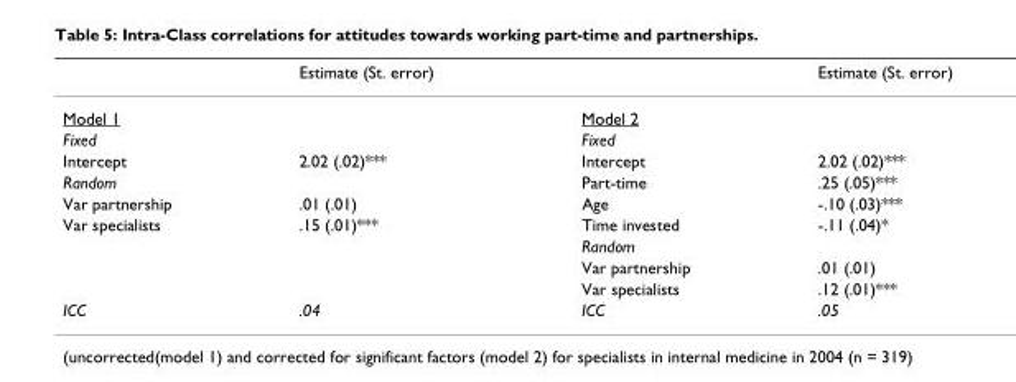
<table><thead><tr><td></td><td>Estimate (St. error)</td><td></td><td>Estimate (St. error)</td></tr></thead><tbody><tr><td>Model 1</td><td></td><td>Model 2</td><td></td></tr><tr><td>Fixed</td><td></td><td>Fixed</td><td></td></tr><tr><td>Intercept</td><td>2.02 (.02)***</td><td>Intercept</td><td>2.02 (.02)***</td></tr><tr><td>Random</td><td></td><td>Part-time</td><td>.25 (.05)***</td></tr><tr><td>Var partnership</td><td>.01 (.01)</td><td>Age</td><td>-.10 (.03)***</td></tr><tr><td rowspan="4">Var specialists</td><td>.15 (.01)***</td><td>Time invested</td><td>-.11 (.04)*</td></tr><tr><td></td><td>Random</td><td></td></tr><tr><td></td><td>Var partnership</td><td>.01 (.01)</td></tr><tr><td></td><td>Var specialists</td><td>.12 (.01)***</td></tr><tr><td>ICC</td><td>.04</td><td>ICC</td><td>.05</td></tr></tbody></table>